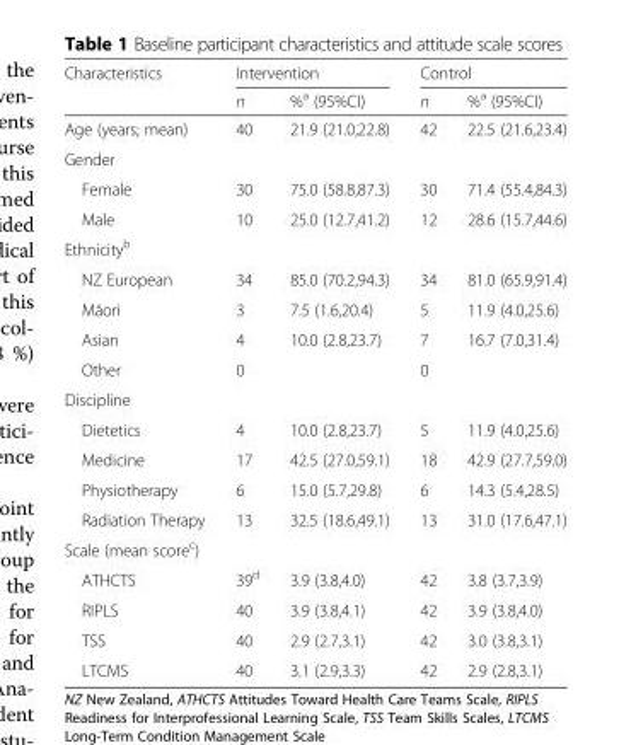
<table><thead><tr><td rowspan="2">Characteristics</td><td colspan="2">Intervention</td><td colspan="2">Control</td></tr><tr><td>n</td><td>%<sup>a</sup> (95%CI)</td><td>n</td><td>%<sup>a</sup> (95%CI)</td></tr></thead><tbody><tr><td>Age (years; mean)</td><td>40</td><td>21.9 (21.0,22.8)</td><td>42</td><td>22.5 (21.6,23.4)</td></tr><tr><td colspan="5">Gender</td></tr><tr><td>Female</td><td>30</td><td>75.0 (58.8,87.3)</td><td>30</td><td>71.4 (55.4,84.3)</td></tr><tr><td>Male</td><td>10</td><td>25.0 (12.7,41.2)</td><td>12</td><td>28.6 (15.7,44.6)</td></tr><tr><td colspan="5">Ethnicity<sup>b</sup></td></tr><tr><td>NZ European</td><td>34</td><td>85.0 (70.2,94.3)</td><td>34</td><td>81.0 (65.9,91.4)</td></tr><tr><td>Māori</td><td>3</td><td>7.5 (1.6,20.4)</td><td>5</td><td>11.9 (4.0,25.6)</td></tr><tr><td>Asian</td><td>4</td><td>10.0 (2.8,23.7)</td><td>7</td><td>16.7 (7.0,31.4)</td></tr><tr><td>Other</td><td>0</td><td></td><td>0</td><td></td></tr><tr><td colspan="5">Discipline</td></tr><tr><td>Dietetics</td><td>4</td><td>10.0 (2.8,23.7)</td><td>5</td><td>11.9 (4.0,25.6)</td></tr><tr><td>Medicine</td><td>17</td><td>42.5 (27.0,59.1)</td><td>18</td><td>42.9 (27.7,59.0)</td></tr><tr><td>Physiotherapy</td><td>6</td><td>15.0 (5.7,29.8)</td><td>6</td><td>14.3 (5.4,28.5)</td></tr><tr><td>Radiation Therapy</td><td>13</td><td>32.5 (18.6,49.1)</td><td>13</td><td>31.0 (17.6,47.1)</td></tr><tr><td colspan="5">Scale (mean score<sup>c</sup>)</td></tr><tr><td>ATHCTS</td><td>39<sup>d</sup></td><td>3.9 (3.8,4.0)</td><td>42</td><td>3.8 (3.7,3.9)</td></tr><tr><td>RIPLS</td><td>40</td><td>3.9 (3.8,4.1)</td><td>42</td><td>3.9 (3.8,4.0)</td></tr><tr><td>TSS</td><td>40</td><td>2.9 (2.7,3.1)</td><td>42</td><td>3.0 (3.8,3.1)</td></tr><tr><td>LTCMS</td><td>40</td><td>3.1 (2.9,3.3)</td><td>42</td><td>2.9 (2.8,3.1)</td></tr></tbody></table>